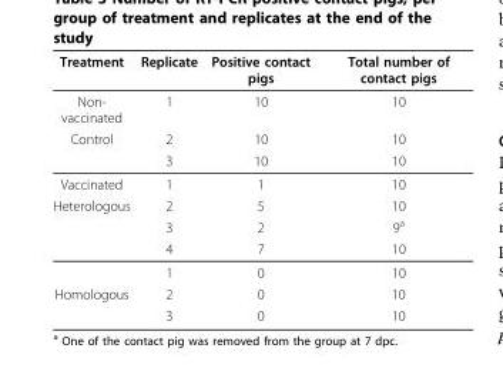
<table><thead><tr><td>Treatment</td><td>Replicate</td><td>Positive contact pigs</td><td>Total number of contact pigs</td></tr></thead><tbody><tr><td>Non- vaccinated</td><td>1</td><td>10</td><td>10</td></tr><tr><td rowspan="2">Control</td><td>2</td><td>10</td><td>10</td></tr><tr><td>3</td><td>10</td><td>10</td></tr><tr><td>Vaccinated</td><td>1</td><td>1</td><td>10</td></tr><tr><td rowspan="4">Heterologous</td><td>2</td><td>5</td><td>10</td></tr><tr><td>3</td><td>2</td><td>9<sup>a</sup></td></tr><tr><td>4</td><td>7</td><td>10</td></tr><tr><td>1</td><td>0</td><td>10</td></tr><tr><td rowspan="2">Homologous</td><td>2</td><td>0</td><td>10</td></tr><tr><td>3</td><td>0</td><td>10</td></tr></tbody></table>